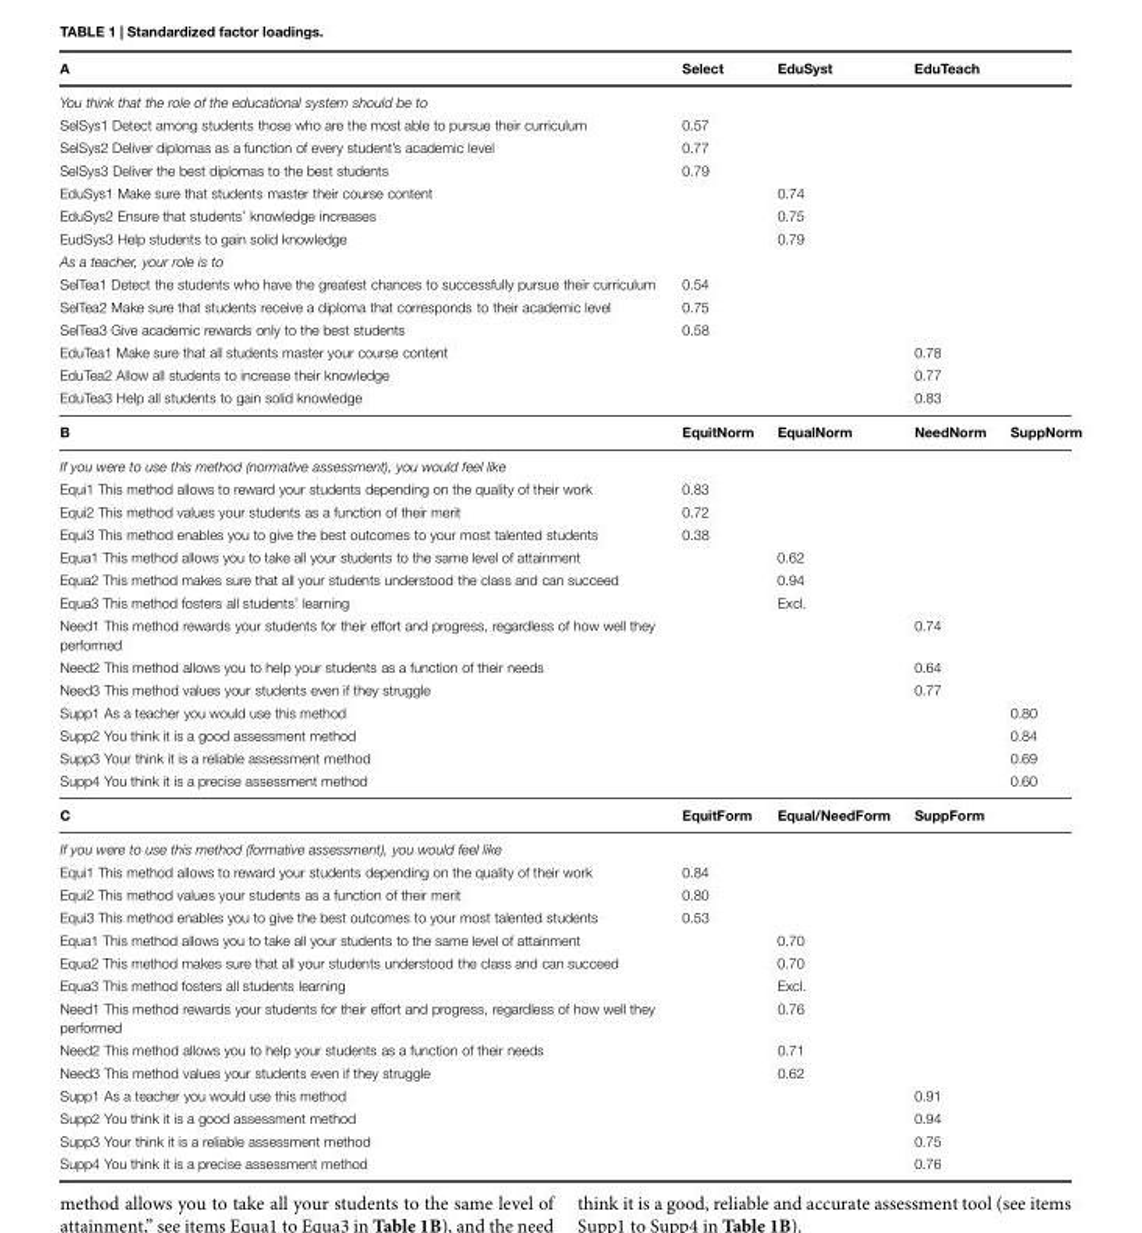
<table><thead><tr><td>A</td><td>Select</td><td>EduSyst</td><td>EduTeach</td><td></td></tr></thead><tbody><tr><td colspan="5">You think that the role of the educational system should be to</td></tr><tr><td>SelSys1 Detect among students those who are the most able to pursue their curriculum</td><td>0.57</td><td></td><td></td><td></td></tr><tr><td>SelSys2 Deliver diplomas as a function of every student’s academic level</td><td>0.77</td><td></td><td></td><td></td></tr><tr><td>SelSys3 Deliver the best diplomas to the best students</td><td>0.79</td><td></td><td></td><td></td></tr><tr><td>EduSys1 Make sure that students master their course content</td><td></td><td>0.74</td><td></td><td></td></tr><tr><td>EduSys2 Ensure that students’ knowledge increases</td><td></td><td>0.75</td><td></td><td></td></tr><tr><td>EudSys3 Help students to gain solid knowledge</td><td></td><td>0.79</td><td></td><td></td></tr><tr><td colspan="5">As a teacher, your role is to</td></tr><tr><td>SelTea1 Detect the students who have the greatest chances to successfully pursue their curriculum</td><td>0.54</td><td></td><td></td><td></td></tr><tr><td>SelTea2 Make sure that students receive a diploma that corresponds to their academic level</td><td>0.75</td><td></td><td></td><td></td></tr><tr><td>SelTea3 Give academic rewards only to the best students</td><td>0.58</td><td></td><td></td><td></td></tr><tr><td>EduTea1 Make sure that all students master your course content</td><td></td><td></td><td>0.78</td><td></td></tr><tr><td>EduTea2 Allow all students to increase their knowledge</td><td></td><td></td><td>0.77</td><td></td></tr><tr><td>EduTea3 Help all students to gain solid knowledge</td><td></td><td></td><td>0.83</td><td></td></tr><tr><td>B</td><td>EquitNorm</td><td>EqualNorm</td><td>NeedNorm</td><td>SuppNorm</td></tr><tr><td colspan="5">If you were to use this method (normative assessment), you would feel like</td></tr><tr><td>Equi1 This method allows to reward your students depending on the quality of their work</td><td>0.83</td><td></td><td></td><td></td></tr><tr><td>Equi2 This method values your students as a function of their merit</td><td>0.72</td><td></td><td></td><td></td></tr><tr><td>Equi3 This method enables you to give the best outcomes to your most talented students</td><td>0.38</td><td></td><td></td><td></td></tr><tr><td>Equa1 This method allows you to take all your students to the same level of attainment</td><td></td><td>0.62</td><td></td><td></td></tr><tr><td>Equa2 This method makes sure that all your students understood the class and can succeed</td><td></td><td>0.94</td><td></td><td></td></tr><tr><td>Equa3 This method fosters all students’ learning</td><td></td><td>Excl.</td><td></td><td></td></tr><tr><td>Need1 This method rewards your students for their effort and progress, regardless of how well they performed</td><td></td><td></td><td>0.74</td><td></td></tr><tr><td>Need2 This method allows you to help your students as a function of their needs</td><td></td><td></td><td>0.64</td><td></td></tr><tr><td>Need3 This method values your students even if they struggle</td><td></td><td></td><td>0.77</td><td></td></tr><tr><td>Supp1 As a teacher you would use this method</td><td></td><td></td><td></td><td>0.80</td></tr><tr><td>Supp2 You think it is a good assessment method</td><td></td><td></td><td></td><td>0.84</td></tr><tr><td>Supp3 Your think it is a reliable assessment method</td><td></td><td></td><td></td><td>0.69</td></tr><tr><td>Supp4 You think it is a precise assessment method</td><td></td><td></td><td></td><td>0.60</td></tr><tr><td>C</td><td>EquitForm</td><td>Equal/NeedForm</td><td>SuppForm</td><td></td></tr><tr><td colspan="5">If you were to use this method (formative assessment), you would feel like</td></tr><tr><td>Equi1 This method allows to reward your students depending on the quality of their work</td><td>0.84</td><td></td><td></td><td></td></tr><tr><td>Equi2 This method values your students as a function of their merit</td><td>0.80</td><td></td><td></td><td></td></tr><tr><td>Equi3 This method enables you to give the best outcomes to your most talented students</td><td>0.53</td><td></td><td></td><td></td></tr><tr><td>Equa1 This method allows you to take all your students to the same level of attainment</td><td></td><td>0.70</td><td></td><td></td></tr><tr><td>Equa2 This method makes sure that all your students understood the class and can succeed</td><td></td><td>0.70</td><td></td><td></td></tr><tr><td>Equa3 This method fosters all students learning</td><td></td><td>Excl.</td><td></td><td></td></tr><tr><td>Need1 This method rewards your students for their effort and progress, regardless of how well they performed</td><td></td><td>0.76</td><td></td><td></td></tr><tr><td>Need2 This method allows you to help your students as a function of their needs</td><td></td><td>0.71</td><td></td><td></td></tr><tr><td>Need3 This method values your students even if they struggle</td><td></td><td>0.62</td><td></td><td></td></tr><tr><td>Supp1 As a teacher you would use this method</td><td></td><td></td><td>0.91</td><td></td></tr><tr><td>Supp2 You think it is a good assessment method</td><td></td><td></td><td>0.94</td><td></td></tr><tr><td>Supp3 Your think it is a reliable assessment method</td><td></td><td></td><td>0.75</td><td></td></tr><tr><td>Supp4 You think it is a precise assessment method</td><td></td><td></td><td>0.76</td><td></td></tr></tbody></table>